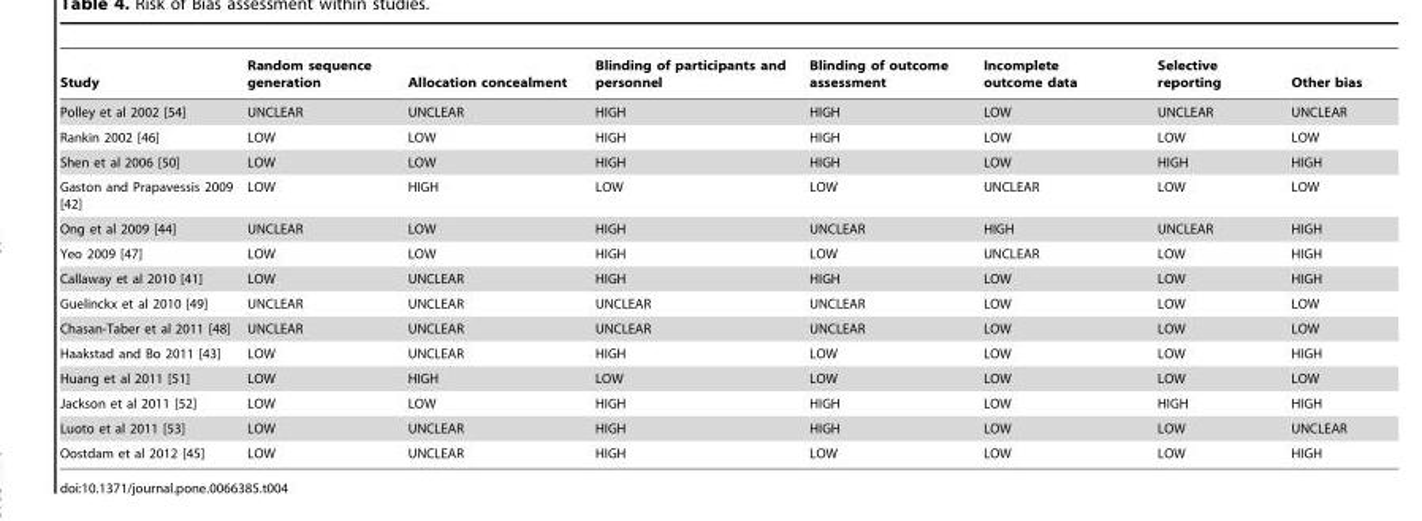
<table><thead><tr><td>Study</td><td>Random sequence generation</td><td>Allocation concealment</td><td>Blinding of participants and personnel</td><td>Blinding of outcome assessment</td><td>Incomplete outcome data</td><td>Selective reporting</td><td>Other bias</td></tr></thead><tbody><tr><td>Polley et al 2002 [54]</td><td>UNCLEAR</td><td>UNCLEAR</td><td>HIGH</td><td>HIGH</td><td>LOW</td><td>UNCLEAR</td><td>UNCLEAR</td></tr><tr><td>Rankin 2002 [46]</td><td>LOW</td><td>LOW</td><td>HIGH</td><td>HIGH</td><td>LOW</td><td>LOW</td><td>LOW</td></tr><tr><td>Shen et al 2006 [50]</td><td>LOW</td><td>LOW</td><td>HIGH</td><td>HIGH</td><td>LOW</td><td>HIGH</td><td>HIGH</td></tr><tr><td>Gaston and Prapavessis 2009 [42]</td><td>LOW</td><td>HIGH</td><td>LOW</td><td>LOW</td><td>UNCLEAR</td><td>LOW</td><td>LOW</td></tr><tr><td>Ong et al 2009 [44]</td><td>UNCLEAR</td><td>LOW</td><td>HIGH</td><td>UNCLEAR</td><td>HIGH</td><td>UNCLEAR</td><td>HIGH</td></tr><tr><td>Yeo 2009 [47]</td><td>LOW</td><td>LOW</td><td>HIGH</td><td>LOW</td><td>UNCLEAR</td><td>LOW</td><td>HIGH</td></tr><tr><td>Callaway et al 2010 [41]</td><td>LOW</td><td>UNCLEAR</td><td>HIGH</td><td>HIGH</td><td>LOW</td><td>LOW</td><td>HIGH</td></tr><tr><td>Guelinckx et al 2010 [49]</td><td>UNCLEAR</td><td>UNCLEAR</td><td>UNCLEAR</td><td>UNCLEAR</td><td>LOW</td><td>LOW</td><td>LOW</td></tr><tr><td>Chasan-Taber et al 2011 [48]</td><td>UNCLEAR</td><td>UNCLEAR</td><td>UNCLEAR</td><td>UNCLEAR</td><td>LOW</td><td>LOW</td><td>LOW</td></tr><tr><td>Haakstad and Bo 2011 [43]</td><td>LOW</td><td>UNCLEAR</td><td>HIGH</td><td>LOW</td><td>LOW</td><td>LOW</td><td>HIGH</td></tr><tr><td>Huang et al 2011 [51]</td><td>LOW</td><td>HIGH</td><td>LOW</td><td>LOW</td><td>LOW</td><td>LOW</td><td>LOW</td></tr><tr><td>Jackson et al 2011 [52]</td><td>LOW</td><td>LOW</td><td>HIGH</td><td>HIGH</td><td>LOW</td><td>HIGH</td><td>HIGH</td></tr><tr><td>Luoto et al 2011 [53]</td><td>LOW</td><td>UNCLEAR</td><td>HIGH</td><td>HIGH</td><td>LOW</td><td>LOW</td><td>UNCLEAR</td></tr><tr><td>Oostdam et al 2012 [45]</td><td>LOW</td><td>UNCLEAR</td><td>HIGH</td><td>LOW</td><td>LOW</td><td>LOW</td><td>HIGH</td></tr></tbody></table>